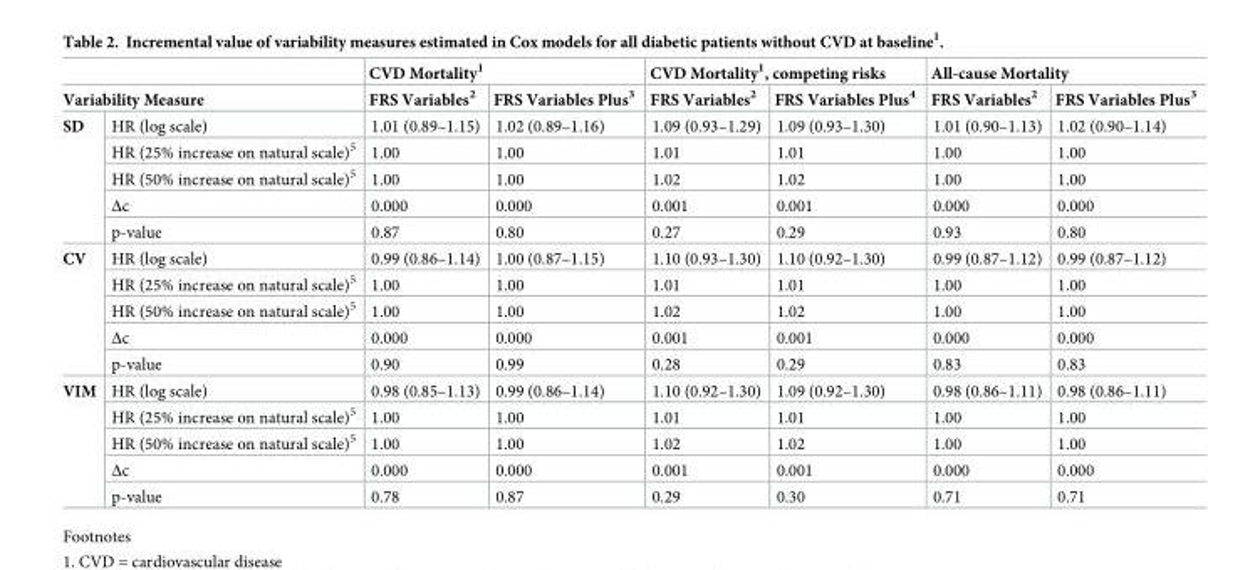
<table><thead><tr><td></td><td></td><td colspan="2">CVD Mortality<sup>1</sup></td><td colspan="2">CVD Mortality<sup>1</sup>, competing risks</td><td colspan="2">All-cause Mortality</td></tr><tr><td colspan="2">Variability Measure</td><td>FRS Variables<sup>2</sup></td><td>FRS Variables Plus<sup>3</sup></td><td>FRS Variables<sup>2</sup></td><td>FRS Variables Plus<sup>4</sup></td><td>FRS Variables<sup>2</sup></td><td>FRS Variables Plus<sup>3</sup></td></tr></thead><tbody><tr><td rowspan="5">SD</td><td>HR (log scale)</td><td>1.01 (0.89–1.15)</td><td>1.02 (0.89–1.16)</td><td>1.09 (0.93–1.29)</td><td>1.09 (0.93–1.30)</td><td>1.01 (0.90–1.13)</td><td>1.02 (0.90–1.14)</td></tr><tr><td>HR (25% increase on natural scale)<sup>5</sup></td><td>1.00</td><td>1.00</td><td>1.01</td><td>1.01</td><td>1.00</td><td>1.00</td></tr><tr><td>HR (50% increase on natural scale)<sup>5</sup></td><td>1.00</td><td>1.00</td><td>1.02</td><td>1.02</td><td>1.00</td><td>1.00</td></tr><tr><td>Δc</td><td>0.000</td><td>0.000</td><td>0.001</td><td>0.001</td><td>0.000</td><td>0.000</td></tr><tr><td>p-value</td><td>0.87</td><td>0.80</td><td>0.27</td><td>0.29</td><td>0.93</td><td>0.80</td></tr><tr><td rowspan="5">CV</td><td>HR (log scale)</td><td>0.99 (0.86–1.14)</td><td>1.00 (0.87–1.15)</td><td>1.10 (0.93–1.30)</td><td>1.10 (0.92–1.30)</td><td>0.99 (0.87–1.12)</td><td>0.99 (0.87–1.12)</td></tr><tr><td>HR (25% increase on natural scale)<sup>5</sup></td><td>1.00</td><td>1.00</td><td>1.01</td><td>1.01</td><td>1.00</td><td>1.00</td></tr><tr><td>HR (50% increase on natural scale)<sup>5</sup></td><td>1.00</td><td>1.00</td><td>1.02</td><td>1.02</td><td>1.00</td><td>1.00</td></tr><tr><td>Δc</td><td>0.000</td><td>0.000</td><td>0.001</td><td>0.001</td><td>0.000</td><td>0.000</td></tr><tr><td>p-value</td><td>0.90</td><td>0.99</td><td>0.28</td><td>0.29</td><td>0.83</td><td>0.83</td></tr><tr><td rowspan="5">VIM</td><td>HR (log scale)</td><td>0.98 (0.85–1.13)</td><td>0.99 (0.86–1.14)</td><td>1.10 (0.92–1.30)</td><td>1.09 (0.92–1.30)</td><td>0.98 (0.86–1.11)</td><td>0.98 (0.86–1.11)</td></tr><tr><td>HR (25% increase on natural scale)<sup>5</sup></td><td>1.00</td><td>1.00</td><td>1.01</td><td>1.01</td><td>1.00</td><td>1.00</td></tr><tr><td>HR (50% increase on natural scale)<sup>5</sup></td><td>1.00</td><td>1.00</td><td>1.02</td><td>1.02</td><td>1.00</td><td>1.00</td></tr><tr><td>Δc</td><td>0.000</td><td>0.000</td><td>0.001</td><td>0.001</td><td>0.000</td><td>0.000</td></tr><tr><td>p-value</td><td>0.78</td><td>0.87</td><td>0.29</td><td>0.30</td><td>0.71</td><td>0.71</td></tr></tbody></table>